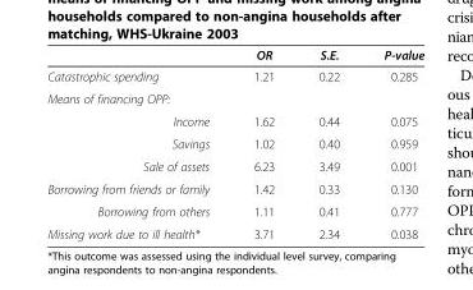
<table><thead><tr><td></td><td>OR</td><td>S.E.</td><td>P-value</td></tr></thead><tbody><tr><td>Catastrophic spending</td><td>1.21</td><td>0.22</td><td>0.285</td></tr><tr><td colspan="4">Means of financing OPP:</td></tr><tr><td>Income</td><td>1.62</td><td>0.44</td><td>0.075</td></tr><tr><td>Savings</td><td>1.02</td><td>0.40</td><td>0.959</td></tr><tr><td>Sale of assets</td><td>6.23</td><td>3.49</td><td>0.001</td></tr><tr><td>Borrowing from friends or family</td><td>1.42</td><td>0.33</td><td>0.130</td></tr><tr><td>Borrowing from others</td><td>1.11</td><td>0.41</td><td>0.777</td></tr><tr><td>Missing work due to ill health*</td><td>3.71</td><td>2.34</td><td>0.038</td></tr></tbody></table>